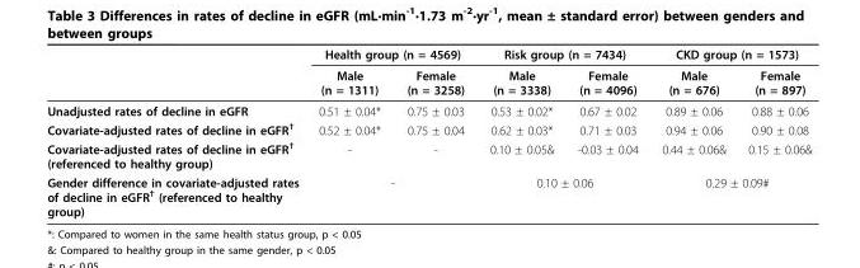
<table><thead><tr><td rowspan="2"></td><td colspan="2">Health group (n = 4569)</td><td colspan="2">Risk group (n = 7434)</td><td colspan="2">CKD group (n = 1573)</td></tr><tr><td>Male (n = 1311)</td><td>Female (n = 3258)</td><td>Male (n = 3338)</td><td>Female (n = 4096)</td><td>Male (n = 676)</td><td>Female (n = 897)</td></tr></thead><tbody><tr><td>Unadjusted rates of decline in eGFR</td><td>0.51 ± 0.04*</td><td>0.75 ± 0.03</td><td>0.53 ± 0.02*</td><td>0.67 ± 0.02</td><td>0.89 ± 0.06</td><td>0.88 ± 0.06</td></tr><tr><td>Covariate-adjusted rates of decline in eGFR<sup>†</sup></td><td>0.52 ± 0.04*</td><td>0.75 ± 0.04</td><td>0.62 ± 0.03*</td><td>0.71 ± 0.03</td><td>0.94 ± 0.06</td><td>0.90 ± 0.08</td></tr><tr><td>Covariate-adjusted rates of decline in eGFR<sup>†</sup> (referenced to healthy group)</td><td>-</td><td>-</td><td>0.10 ± 0.05&amp;</td><td>-0.03 ± 0.04</td><td>0.44 ± 0.06&amp;</td><td>0.15 ± 0.06&amp;</td></tr><tr><td>Gender difference in covariate-adjusted rates of decline in eGFR<sup>†</sup> (referenced to healthy group)</td><td colspan="2">-</td><td colspan="2">0.10 ± 0.06</td><td colspan="2">0.29 ± 0.09#</td></tr></tbody></table>